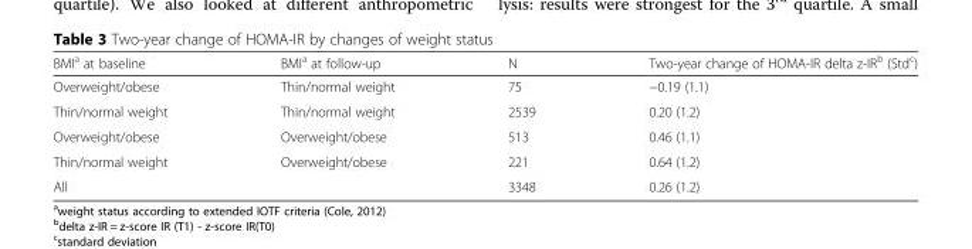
<table><thead><tr><td>BMI<sup>a</sup> at baseline</td><td>BMI<sup>a</sup> at follow-up</td><td>N</td><td>Two-year change of HOMA-IR delta z-IR<sup>b</sup> (Std<sup>c</sup>)</td></tr></thead><tbody><tr><td>Overweight/obese</td><td>Thin/normal weight</td><td>75</td><td>−0.19 (1.1)</td></tr><tr><td>Thin/normal weight</td><td>Thin/normal weight</td><td>2539</td><td>0.20 (1.2)</td></tr><tr><td>Overweight/obese</td><td>Overweight/obese</td><td>513</td><td>0.46 (1.1)</td></tr><tr><td>Thin/normal weight</td><td>Overweight/obese</td><td>221</td><td>0.64 (1.2)</td></tr><tr><td>All</td><td></td><td>3348</td><td>0.26 (1.2)</td></tr></tbody></table>